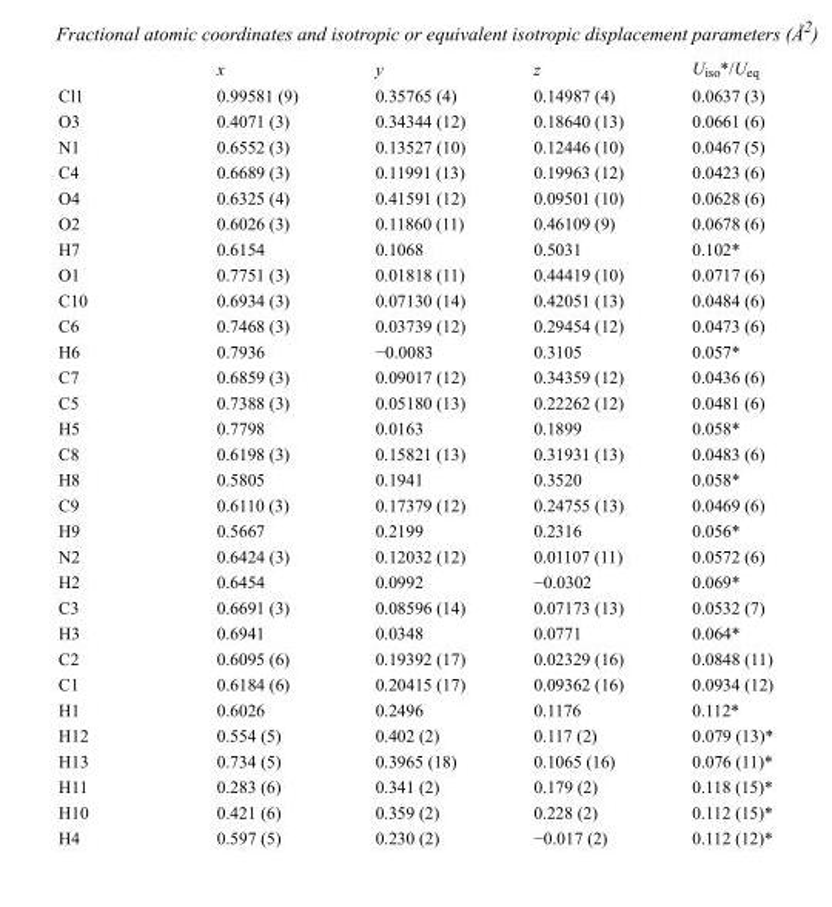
<table><thead><tr><td></td><td>x</td><td>y</td><td>z</td><td>U<sub>iso</sub>*/U<sub>eq</sub></td></tr></thead><tbody><tr><td>Cl1</td><td>0.99581 (9)</td><td>0.35765 (4)</td><td>0.14987 (4)</td><td>0.0637 (3)</td></tr><tr><td>O3</td><td>0.4071 (3)</td><td>0.34344 (12)</td><td>0.18640 (13)</td><td>0.0661 (6)</td></tr><tr><td>N1</td><td>0.6552 (3)</td><td>0.13527 (10)</td><td>0.12446 (10)</td><td>0.0467 (5)</td></tr><tr><td>C4</td><td>0.6689 (3)</td><td>0.11991 (13)</td><td>0.19963 (12)</td><td>0.0423 (6)</td></tr><tr><td>O4</td><td>0.6325 (4)</td><td>0.41591 (12)</td><td>0.09501 (10)</td><td>0.0628 (6)</td></tr><tr><td>O2</td><td>0.6026 (3)</td><td>0.11860 (11)</td><td>0.46109 (9)</td><td>0.0678 (6)</td></tr><tr><td>H7</td><td>0.6154</td><td>0.1068</td><td>0.5031</td><td>0.102*</td></tr><tr><td>O1</td><td>0.7751 (3)</td><td>0.01818 (11)</td><td>0.44419 (10)</td><td>0.0717 (6)</td></tr><tr><td>C10</td><td>0.6934 (3)</td><td>0.07130 (14)</td><td>0.42051 (13)</td><td>0.0484 (6)</td></tr><tr><td>C6</td><td>0.7468 (3)</td><td>0.03739 (12)</td><td>0.29454 (12)</td><td>0.0473 (6)</td></tr><tr><td>H6</td><td>0.7936</td><td>−0.0083</td><td>0.3105</td><td>0.057*</td></tr><tr><td>C7</td><td>0.6859 (3)</td><td>0.09017 (12)</td><td>0.34359 (12)</td><td>0.0436 (6)</td></tr><tr><td>C5</td><td>0.7388 (3)</td><td>0.05180 (13)</td><td>0.22262 (12)</td><td>0.0481 (6)</td></tr><tr><td>H5</td><td>0.7798</td><td>0.0163</td><td>0.1899</td><td>0.058*</td></tr><tr><td>C8</td><td>0.6198 (3)</td><td>0.15821 (13)</td><td>0.31931 (13)</td><td>0.0483 (6)</td></tr><tr><td>H8</td><td>0.5805</td><td>0.1941</td><td>0.3520</td><td>0.058*</td></tr><tr><td>C9</td><td>0.6110 (3)</td><td>0.17379 (12)</td><td>0.24755 (13)</td><td>0.0469 (6)</td></tr><tr><td>H9</td><td>0.5667</td><td>0.2199</td><td>0.2316</td><td>0.056*</td></tr><tr><td>N2</td><td>0.6424 (3)</td><td>0.12032 (12)</td><td>0.01107 (11)</td><td>0.0572 (6)</td></tr><tr><td>H2</td><td>0.6454</td><td>0.0992</td><td>−0.0302</td><td>0.069*</td></tr><tr><td>C3</td><td>0.6691 (3)</td><td>0.08596 (14)</td><td>0.07173 (13)</td><td>0.0532 (7)</td></tr><tr><td>H3</td><td>0.6941</td><td>0.0348</td><td>0.0771</td><td>0.064*</td></tr><tr><td>C2</td><td>0.6095 (6)</td><td>0.19392 (17)</td><td>0.02329 (16)</td><td>0.0848 (11)</td></tr><tr><td>C1</td><td>0.6184 (6)</td><td>0.20415 (17)</td><td>0.09362 (16)</td><td>0.0934 (12)</td></tr><tr><td>H1</td><td>0.6026</td><td>0.2496</td><td>0.1176</td><td>0.112*</td></tr><tr><td>H12</td><td>0.554 (5)</td><td>0.402 (2)</td><td>0.117 (2)</td><td>0.079 (13)*</td></tr><tr><td>H13</td><td>0.734 (5)</td><td>0.3965 (18)</td><td>0.1065 (16)</td><td>0.076 (11)*</td></tr><tr><td>H11</td><td>0.283 (6)</td><td>0.341 (2)</td><td>0.179 (2)</td><td>0.118 (15)*</td></tr><tr><td>H10</td><td>0.421 (6)</td><td>0.359 (2)</td><td>0.228 (2)</td><td>0.112 (15)*</td></tr><tr><td>H4</td><td>0.597 (5)</td><td>0.230 (2)</td><td>−0.017 (2)</td><td>0.112 (12)*</td></tr></tbody></table>